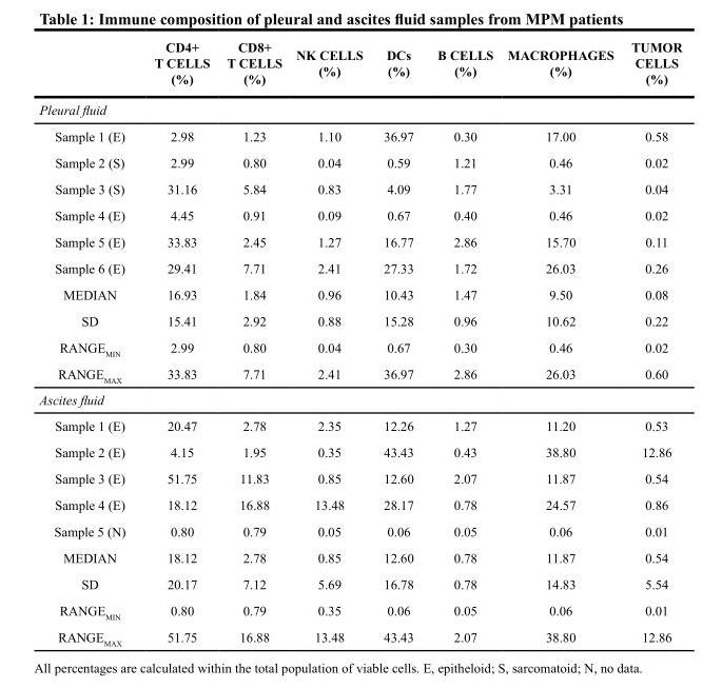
<table><thead><tr><td></td><td>CD4+ T CELLS (%)</td><td>CD8+ T CELLS (%)</td><td>NK CELLS (%)</td><td>DCs (%)</td><td>B CELLS (%)</td><td>MACROPHAGES (%)</td><td>TUMOR CELLS (%)</td></tr></thead><tbody><tr><td colspan="8">Pleural fluid</td></tr><tr><td>Sample 1 (E)</td><td>2.98</td><td>1.23</td><td>1.10</td><td>36.97</td><td>0.30</td><td>17.00</td><td>0.58</td></tr><tr><td>Sample 2 (S)</td><td>2.99</td><td>0.80</td><td>0.04</td><td>0.59</td><td>1.21</td><td>0.46</td><td>0.02</td></tr><tr><td>Sample 3 (S)</td><td>31.16</td><td>5.84</td><td>0.83</td><td>4.09</td><td>1.77</td><td>3.31</td><td>0.04</td></tr><tr><td>Sample 4 (E)</td><td>4.45</td><td>0.91</td><td>0.09</td><td>0.67</td><td>0.40</td><td>0.46</td><td>0.02</td></tr><tr><td>Sample 5 (E)</td><td>33.83</td><td>2.45</td><td>1.27</td><td>16.77</td><td>2.86</td><td>15.70</td><td>0.11</td></tr><tr><td>Sample 6 (E)</td><td>29.41</td><td>7.71</td><td>2.41</td><td>27.33</td><td>1.72</td><td>26.03</td><td>0.26</td></tr><tr><td>MEDIAN</td><td>16.93</td><td>1.84</td><td>0.96</td><td>10.43</td><td>1.47</td><td>9.50</td><td>0.08</td></tr><tr><td>SD</td><td>15.41</td><td>2.92</td><td>0.88</td><td>15.28</td><td>0.96</td><td>10.62</td><td>0.22</td></tr><tr><td>RANGE<sub>MIN</sub></td><td>2.99</td><td>0.80</td><td>0.04</td><td>0.67</td><td>0.30</td><td>0.46</td><td>0.02</td></tr><tr><td>RANGE<sub>MAX</sub></td><td>33.83</td><td>7.71</td><td>2.41</td><td>36.97</td><td>2.86</td><td>26.03</td><td>0.60</td></tr><tr><td colspan="8">Ascites fluid</td></tr><tr><td>Sample 1 (E)</td><td>20.47</td><td>2.78</td><td>2.35</td><td>12.26</td><td>1.27</td><td>11.20</td><td>0.53</td></tr><tr><td>Sample 2 (E)</td><td>4.15</td><td>1.95</td><td>0.35</td><td>43.43</td><td>0.43</td><td>38.80</td><td>12.86</td></tr><tr><td>Sample 3 (E)</td><td>51.75</td><td>11.83</td><td>0.85</td><td>12.60</td><td>2.07</td><td>11.87</td><td>0.54</td></tr><tr><td>Sample 4 (E)</td><td>18.12</td><td>16.88</td><td>13.48</td><td>28.17</td><td>0.78</td><td>24.57</td><td>0.86</td></tr><tr><td>Sample 5 (N)</td><td>0.80</td><td>0.79</td><td>0.05</td><td>0.06</td><td>0.05</td><td>0.06</td><td>0.01</td></tr><tr><td>MEDIAN</td><td>18.12</td><td>2.78</td><td>0.85</td><td>12.60</td><td>0.78</td><td>11.87</td><td>0.54</td></tr><tr><td>SD</td><td>20.17</td><td>7.12</td><td>5.69</td><td>16.78</td><td>0.78</td><td>14.83</td><td>5.54</td></tr><tr><td>RANGE<sub>MIN</sub></td><td>0.80</td><td>0.79</td><td>0.35</td><td>0.06</td><td>0.05</td><td>0.06</td><td>0.01</td></tr><tr><td>RANGE<sub>MAX</sub></td><td>51.75</td><td>16.88</td><td>13.48</td><td>43.43</td><td>2.07</td><td>38.80</td><td>12.86</td></tr></tbody></table>